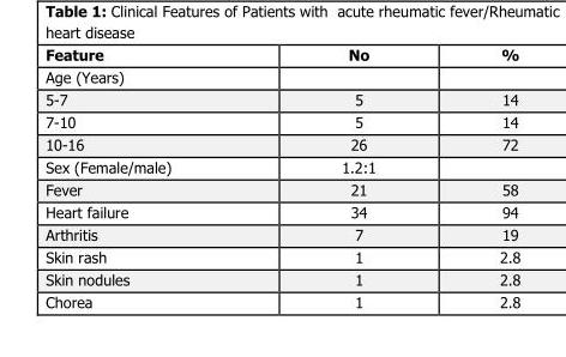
<table><thead><tr><td>Feature</td><td>No</td><td>%</td></tr></thead><tbody><tr><td colspan="3">Age (Years)</td></tr><tr><td>5-7</td><td>5</td><td>14</td></tr><tr><td>7-10</td><td>5</td><td>14</td></tr><tr><td>10-16</td><td>26</td><td>72</td></tr><tr><td>Sex (Female/male)</td><td>1.2:1</td><td></td></tr><tr><td>Fever</td><td>21</td><td>58</td></tr><tr><td>Heart failure</td><td>34</td><td>94</td></tr><tr><td>Arthritis</td><td>7</td><td>19</td></tr><tr><td>Skin rash</td><td>1</td><td>2.8</td></tr><tr><td>Skin nodules</td><td>1</td><td>2.8</td></tr><tr><td>Chorea</td><td>1</td><td>2.8</td></tr></tbody></table>